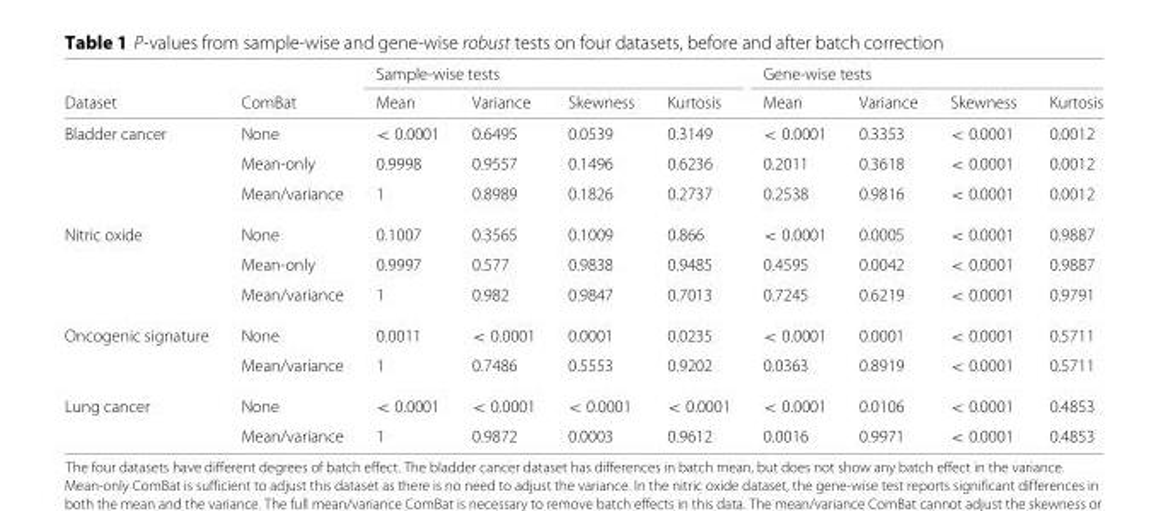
<table><thead><tr><td rowspan="2">Dataset</td><td rowspan="2">ComBat</td><td colspan="4">Sample-wise tests</td><td colspan="4">Gene-wise tests</td></tr><tr><td>Mean</td><td>Variance</td><td>Skewness</td><td>Kurtosis</td><td>Mean</td><td>Variance</td><td>Skewness</td><td>Kurtosis</td></tr></thead><tbody><tr><td rowspan="3">Bladder cancer</td><td>None</td><td>&lt; 0.0001</td><td>0.6495</td><td>0.0539</td><td>0.3149</td><td>&lt; 0.0001</td><td>0.3353</td><td>&lt; 0.0001</td><td>0.0012</td></tr><tr><td>Mean-only</td><td>0.9998</td><td>0.9557</td><td>0.1496</td><td>0.6236</td><td>0.2011</td><td>0.3618</td><td>&lt; 0.0001</td><td>0.0012</td></tr><tr><td>Mean/variance</td><td>1</td><td>0.8989</td><td>0.1826</td><td>0.2737</td><td>0.2538</td><td>0.9816</td><td>&lt; 0.0001</td><td>0.0012</td></tr><tr><td rowspan="3">Nitric oxide</td><td>None</td><td>0.1007</td><td>0.3565</td><td>0.1009</td><td>0.866</td><td>&lt; 0.0001</td><td>0.0005</td><td>&lt; 0.0001</td><td>0.9887</td></tr><tr><td>Mean-only</td><td>0.9997</td><td>0.577</td><td>0.9838</td><td>0.9485</td><td>0.4595</td><td>0.0042</td><td>&lt; 0.0001</td><td>0.9887</td></tr><tr><td>Mean/variance</td><td>1</td><td>0.982</td><td>0.9847</td><td>0.7013</td><td>0.7245</td><td>0.6219</td><td>&lt; 0.0001</td><td>0.9791</td></tr><tr><td rowspan="2">Oncogenic signature</td><td>None</td><td>0.0011</td><td>&lt; 0.0001</td><td>0.0001</td><td>0.0235</td><td>&lt; 0.0001</td><td>0.0001</td><td>&lt; 0.0001</td><td>0.5711</td></tr><tr><td>Mean/variance</td><td>1</td><td>0.7486</td><td>0.5553</td><td>0.9202</td><td>0.0363</td><td>0.8919</td><td>&lt; 0.0001</td><td>0.5711</td></tr><tr><td rowspan="2">Lung cancer</td><td>None</td><td>&lt; 0.0001</td><td>&lt; 0.0001</td><td>&lt; 0.0001</td><td>&lt; 0.0001</td><td>&lt; 0.0001</td><td>0.0106</td><td>&lt; 0.0001</td><td>0.4853</td></tr><tr><td>Mean/variance</td><td>1</td><td>0.9872</td><td>0.0003</td><td>0.9612</td><td>0.0016</td><td>0.9971</td><td>&lt; 0.0001</td><td>0.4853</td></tr></tbody></table>